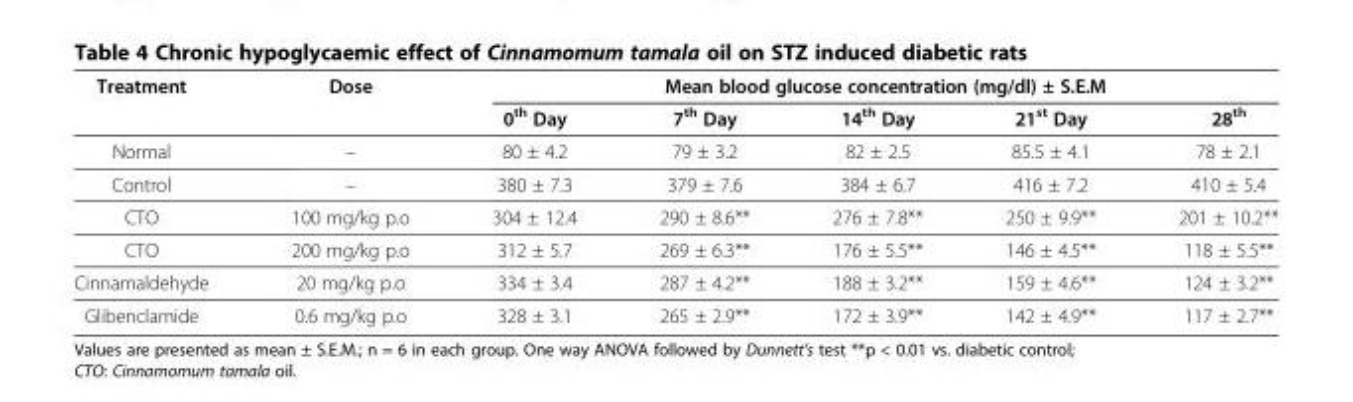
<table><thead><tr><td rowspan="2">Treatment</td><td rowspan="2">Dose</td><td colspan="5">Mean blood glucose concentration (mg/dl) ± S.E.M</td></tr><tr><td>0<sup>th</sup> Day</td><td>7<sup>th</sup> Day</td><td>14<sup>th</sup> Day</td><td>21<sup>st</sup> Day</td><td>28<sup>th</sup></td></tr></thead><tbody><tr><td>Normal</td><td>–</td><td>80 ± 4.2</td><td>79 ± 3.2</td><td>82 ± 2.5</td><td>85.5 ± 4.1</td><td>78 ± 2.1</td></tr><tr><td>Control</td><td>–</td><td>380 ± 7.3</td><td>379 ± 7.6</td><td>384 ± 6.7</td><td>416 ± 7.2</td><td>410 ± 5.4</td></tr><tr><td>CTO</td><td>100 mg/kg p.o</td><td>304 ± 12.4</td><td>290 ± 8.6**</td><td>276 ± 7.8**</td><td>250 ± 9.9**</td><td>201 ± 10.2**</td></tr><tr><td>CTO</td><td>200 mg/kg p.o</td><td>312 ± 5.7</td><td>269 ± 6.3**</td><td>176 ± 5.5**</td><td>146 ± 4.5**</td><td>118 ± 5.5**</td></tr><tr><td>Cinnamaldehyde</td><td>20 mg/kg p.o</td><td>334 ± 3.4</td><td>287 ± 4.2**</td><td>188 ± 3.2**</td><td>159 ± 4.6**</td><td>124 ± 3.2**</td></tr><tr><td>Glibenclamide</td><td>0.6 mg/kg p.o</td><td>328 ± 3.1</td><td>265 ± 2.9**</td><td>172 ± 3.9**</td><td>142 ± 4.9**</td><td>117 ± 2.7**</td></tr></tbody></table>